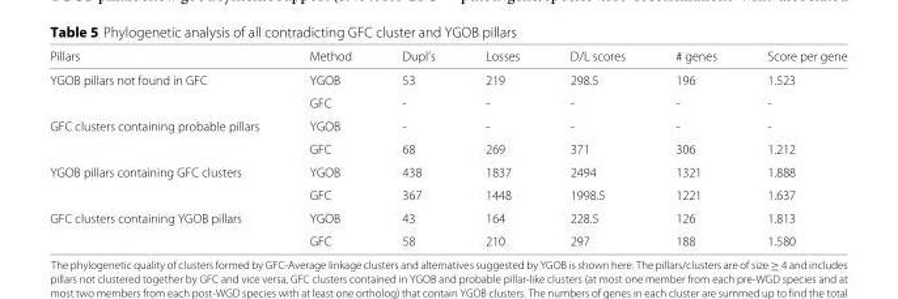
<table><thead><tr><td>Pillars</td><td>Method</td><td>Dupl’s</td><td>Losses</td><td>D/L scores</td><td># genes</td><td>Score per gene</td></tr></thead><tbody><tr><td rowspan="2">YGOB pillars not found in GFC</td><td>YGOB</td><td>53</td><td>219</td><td>298.5</td><td>196</td><td>1.523</td></tr><tr><td>GFC</td><td>-</td><td>-</td><td>-</td><td>-</td><td>-</td></tr><tr><td rowspan="2">GFC clusters containing probable pillars</td><td>YGOB</td><td>-</td><td>-</td><td>-</td><td>-</td><td>-</td></tr><tr><td>GFC</td><td>68</td><td>269</td><td>371</td><td>306</td><td>1.212</td></tr><tr><td rowspan="2">YGOB pillars containing GFC clusters</td><td>YGOB</td><td>438</td><td>1837</td><td>2494</td><td>1321</td><td>1.888</td></tr><tr><td>GFC</td><td>367</td><td>1448</td><td>1998.5</td><td>1221</td><td>1.637</td></tr><tr><td rowspan="2">GFC clusters containing YGOB pillars</td><td>YGOB</td><td>43</td><td>164</td><td>228.5</td><td>126</td><td>1.813</td></tr><tr><td>GFC</td><td>58</td><td>210</td><td>297</td><td>188</td><td>1.580</td></tr></tbody></table>